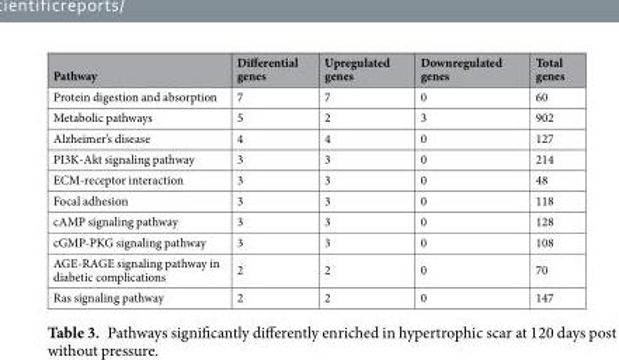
<table><thead><tr><td>Pathway</td><td>Differential genes</td><td>Upregulated genes</td><td>Downregulated genes</td><td>Total genes</td></tr></thead><tbody><tr><td>Protein digestion and absorption</td><td>7</td><td>7</td><td>0</td><td>60</td></tr><tr><td>Metabolic pathways</td><td>5</td><td>2</td><td>3</td><td>902</td></tr><tr><td>Alzheimer’s disease</td><td>4</td><td>4</td><td>0</td><td>127</td></tr><tr><td>PI3K-Akt signaling pathway</td><td>3</td><td>3</td><td>0</td><td>214</td></tr><tr><td>ECM-receptor interaction</td><td>3</td><td>3</td><td>0</td><td>48</td></tr><tr><td>Focal adhesion</td><td>3</td><td>3</td><td>0</td><td>118</td></tr><tr><td>cAMP signaling pathway</td><td>3</td><td>3</td><td>0</td><td>128</td></tr><tr><td>cGMP-PKG signaling pathway</td><td>3</td><td>3</td><td>0</td><td>108</td></tr><tr><td>AGE-RAGE signaling pathway in diabetic complications</td><td>2</td><td>2</td><td>0</td><td>70</td></tr><tr><td>Ras signaling pathway</td><td>2</td><td>2</td><td>0</td><td>147</td></tr></tbody></table>